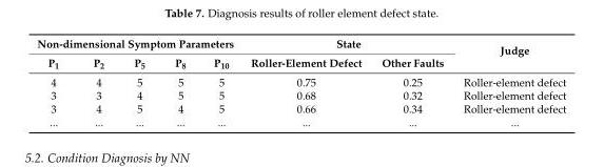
<table><thead><tr><td colspan="5">Non-dimensional Symptom Parameters</td><td colspan="2">State</td><td rowspan="2">Judge</td></tr><tr><td>P<sub>1</sub></td><td>P<sub>2</sub></td><td>P<sub>5</sub></td><td>P<sub>8</sub></td><td>P<sub>10</sub></td><td>Roller-Element Defect</td><td>Other Faults</td></tr></thead><tbody><tr><td>4</td><td>4</td><td>5</td><td>5</td><td>5</td><td>0.75</td><td>0.25</td><td>Roller-element defect</td></tr><tr><td>3</td><td>3</td><td>4</td><td>5</td><td>5</td><td>0.68</td><td>0.32</td><td>Roller-element defect</td></tr><tr><td>3</td><td>4</td><td>5</td><td>4</td><td>5</td><td>0.66</td><td>0.34</td><td>Roller-element defect</td></tr><tr><td>...</td><td>...</td><td>...</td><td>...</td><td>...</td><td>...</td><td>...</td><td>...</td></tr></tbody></table>